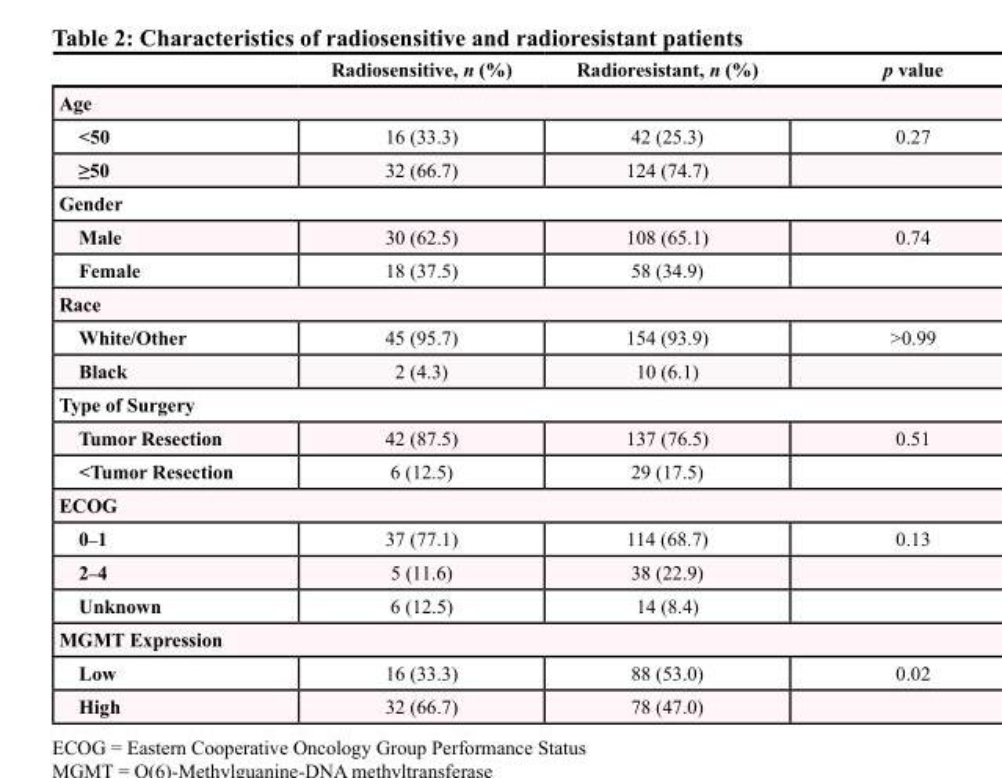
<table><thead><tr><td></td><td>Radiosensitive, n (%)</td><td>Radioresistant, n (%)</td><td>p value</td></tr></thead><tbody><tr><td colspan="4">Age</td></tr><tr><td>&lt;50</td><td>16 (33.3)</td><td>42 (25.3)</td><td>0.27</td></tr><tr><td>≥50</td><td>32 (66.7)</td><td>124 (74.7)</td><td></td></tr><tr><td colspan="4">Gender</td></tr><tr><td>Male</td><td>30 (62.5)</td><td>108 (65.1)</td><td>0.74</td></tr><tr><td>Female</td><td>18 (37.5)</td><td>58 (34.9)</td><td></td></tr><tr><td colspan="4">Race</td></tr><tr><td>White/Other</td><td>45 (95.7)</td><td>154 (93.9)</td><td>&gt;0.99</td></tr><tr><td>Black</td><td>2 (4.3)</td><td>10 (6.1)</td><td></td></tr><tr><td colspan="4">Type of Surgery</td></tr><tr><td>Tumor Resection</td><td>42 (87.5)</td><td>137 (76.5)</td><td>0.51</td></tr><tr><td>&lt;Tumor Resection</td><td>6 (12.5)</td><td>29 (17.5)</td><td></td></tr><tr><td colspan="4">ECOG</td></tr><tr><td>0–1</td><td>37 (77.1)</td><td>114 (68.7)</td><td>0.13</td></tr><tr><td>2–4</td><td>5 (11.6)</td><td>38 (22.9)</td><td></td></tr><tr><td>Unknown</td><td>6 (12.5)</td><td>14 (8.4)</td><td></td></tr><tr><td colspan="4">MGMT Expression</td></tr><tr><td>Low</td><td>16 (33.3)</td><td>88 (53.0)</td><td>0.02</td></tr><tr><td>High</td><td>32 (66.7)</td><td>78 (47.0)</td><td></td></tr></tbody></table>